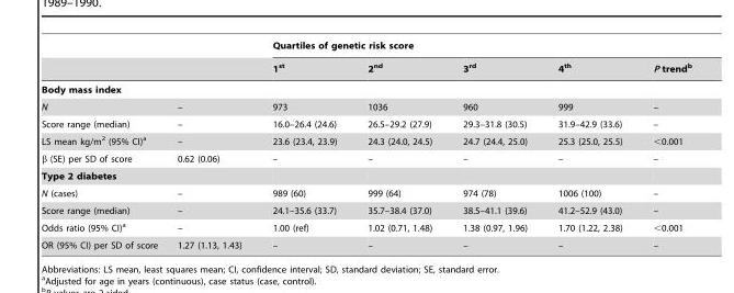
<table><thead><tr><td rowspan="2"></td><td rowspan="2"></td><td colspan="5">Quartiles of genetic risk score</td></tr><tr><td>1<sup>st</sup></td><td>2<sup>nd</sup></td><td>3<sup>rd</sup></td><td>4<sup>th</sup></td><td>P trend<sup>b</sup></td></tr></thead><tbody><tr><td colspan="7">Body mass index</td></tr><tr><td>N</td><td>–</td><td>973</td><td>1036</td><td>960</td><td>999</td><td>–</td></tr><tr><td>Score range (median)</td><td>–</td><td>16.0–26.4 (24.6)</td><td>26.5–29.2 (27.9)</td><td>29.3–31.8 (30.5)</td><td>31.9–42.9 (33.6)</td><td>–</td></tr><tr><td>LS mean kg/m<sup>2</sup> (95% CI)<sup>a</sup></td><td>–</td><td>23.6 (23.4, 23.9)</td><td>24.3 (24.0, 24.5)</td><td>24.7 (24.4, 25.0)</td><td>25.3 (25.0, 25.5)</td><td>&lt;0.001</td></tr><tr><td>β (SE) per SD of score</td><td>0.62 (0.06)</td><td>–</td><td>–</td><td>–</td><td>–</td><td>–</td></tr><tr><td colspan="7">Type 2 diabetes</td></tr><tr><td>N (cases)</td><td>–</td><td>989 (60)</td><td>999 (64)</td><td>974 (78)</td><td>1006 (100)</td><td>–</td></tr><tr><td>Score range (median)</td><td>–</td><td>24.1–35.6 (33.7)</td><td>35.7–38.4 (37.0)</td><td>38.5–41.1 (39.6)</td><td>41.2–52.9 (43.0)</td><td>–</td></tr><tr><td>Odds ratio (95% CI)<sup>a</sup></td><td>–</td><td>1.00 (ref)</td><td>1.02 (0.71, 1.48)</td><td>1.38 (0.97, 1.96)</td><td>1.70 (1.22, 2.38)</td><td>&lt;0.001</td></tr><tr><td>OR (95% CI) per SD of score</td><td>1.27 (1.13, 1.43)</td><td>–</td><td>–</td><td>–</td><td>–</td><td>–</td></tr></tbody></table>